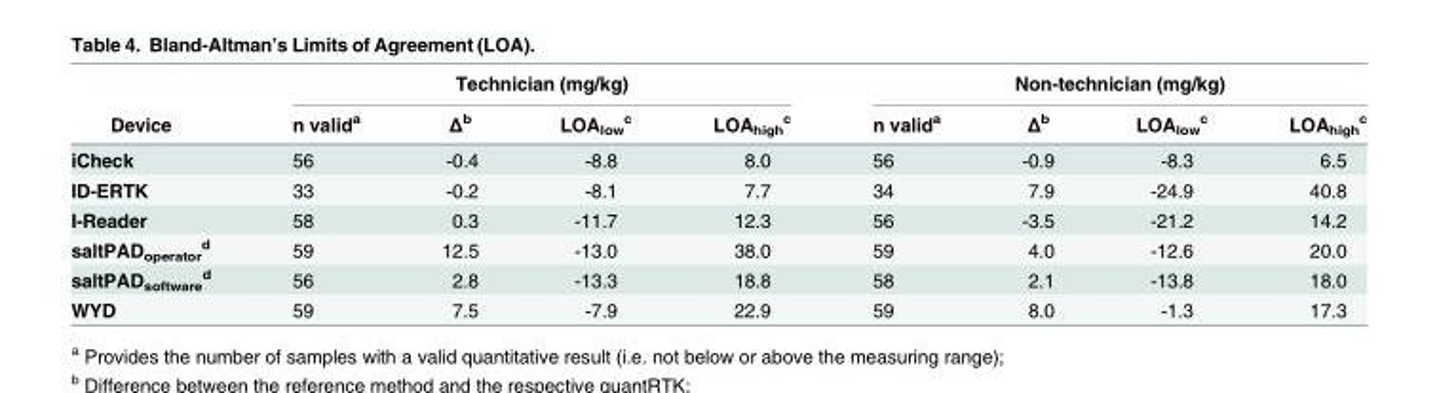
<table><thead><tr><td rowspan="2">Device</td><td colspan="4">Technician (mg/kg)</td><td colspan="4">Non-technician (mg/kg)</td></tr><tr><td>n valid<sup>a</sup></td><td>Δ<sup>b</sup></td><td>LOA<sub>low</sub> <sup>c</sup></td><td>LOA<sub>high</sub> <sup>c</sup></td><td>n valid<sup>a</sup></td><td>Δ<sup>b</sup></td><td>LOA<sub>low</sub> <sup>c</sup></td><td>LOA<sub>high</sub> <sup>c</sup></td></tr></thead><tbody><tr><td>iCheck</td><td>56</td><td>-0.4</td><td>-8.8</td><td>8.0</td><td>56</td><td>-0.9</td><td>-8.3</td><td>6.5</td></tr><tr><td>ID-ERTK</td><td>33</td><td>-0.2</td><td>-8.1</td><td>7.7</td><td>34</td><td>7.9</td><td>-24.9</td><td>40.8</td></tr><tr><td>I-Reader</td><td>58</td><td>0.3</td><td>-11.7</td><td>12.3</td><td>56</td><td>-3.5</td><td>-21.2</td><td>14.2</td></tr><tr><td>saltPAD<sub>operator</sub> <sup>d</sup></td><td>59</td><td>12.5</td><td>-13.0</td><td>38.0</td><td>59</td><td>4.0</td><td>-12.6</td><td>20.0</td></tr><tr><td>saltPAD<sub>software</sub> <sup>d</sup></td><td>56</td><td>2.8</td><td>-13.3</td><td>18.8</td><td>58</td><td>2.1</td><td>-13.8</td><td>18.0</td></tr><tr><td>WYD</td><td>59</td><td>7.5</td><td>-7.9</td><td>22.9</td><td>59</td><td>8.0</td><td>-1.3</td><td>17.3</td></tr></tbody></table>